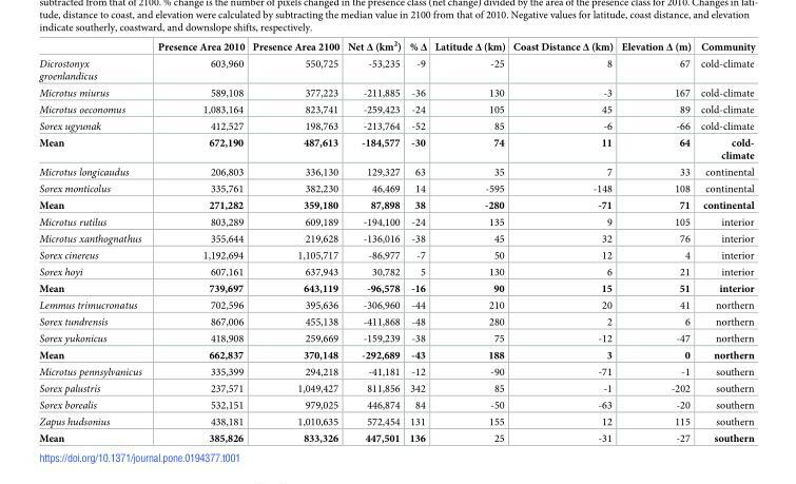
<table><thead><tr><td></td><td>Presence Area 2010</td><td>Presence Area 2100</td><td>Net Δ (km<sup>2</sup>)</td><td>% Δ</td><td>Latitude Δ (km)</td><td>Coast Distance Δ (km)</td><td>Elevation Δ (m)</td><td>Community</td></tr></thead><tbody><tr><td>Dicrostonyx groenlandicus</td><td>603,960</td><td>550,725</td><td>-53,235</td><td>-9</td><td>-25</td><td>8</td><td>67</td><td>cold-climate</td></tr><tr><td>Microtus miurus</td><td>589,108</td><td>377,223</td><td>-211,885</td><td>-36</td><td>130</td><td>-3</td><td>167</td><td>cold-climate</td></tr><tr><td>Microtus oeconomus</td><td>1,083,164</td><td>823,741</td><td>-259,423</td><td>-24</td><td>105</td><td>45</td><td>89</td><td>cold-climate</td></tr><tr><td>Sorex ugyunak</td><td>412,527</td><td>198,763</td><td>-213,764</td><td>-52</td><td>85</td><td>-6</td><td>-66</td><td>cold-climate</td></tr><tr><td>Mean</td><td>672,190</td><td>487,613</td><td>-184,577</td><td>-30</td><td>74</td><td>11</td><td>64</td><td>cold- climate</td></tr><tr><td>Microtus longicaudus</td><td>206,803</td><td>336,130</td><td>129,327</td><td>63</td><td>35</td><td>7</td><td>33</td><td>continental</td></tr><tr><td>Sorex monticolus</td><td>335,761</td><td>382,230</td><td>46,469</td><td>14</td><td>-595</td><td>-148</td><td>108</td><td>continental</td></tr><tr><td>Mean</td><td>271,282</td><td>359,180</td><td>87,898</td><td>38</td><td>-280</td><td>-71</td><td>71</td><td>continental</td></tr><tr><td>Microtus rutilus</td><td>803,289</td><td>609,189</td><td>-194,100</td><td>-24</td><td>135</td><td>9</td><td>105</td><td>interior</td></tr><tr><td>Microtus xanthognathus</td><td>355,644</td><td>219,628</td><td>-136,016</td><td>-38</td><td>45</td><td>32</td><td>76</td><td>interior</td></tr><tr><td>Sorex cinereus</td><td>1,192,694</td><td>1,105,717</td><td>-86,977</td><td>-7</td><td>50</td><td>12</td><td>4</td><td>interior</td></tr><tr><td>Sorex hoyi</td><td>607,161</td><td>637,943</td><td>30,782</td><td>5</td><td>130</td><td>6</td><td>21</td><td>interior</td></tr><tr><td>Mean</td><td>739,697</td><td>643,119</td><td>-96,578</td><td>-16</td><td>90</td><td>15</td><td>51</td><td>interior</td></tr><tr><td>Lemmus trimucronatus</td><td>702,596</td><td>395,636</td><td>-306,960</td><td>-44</td><td>210</td><td>20</td><td>41</td><td>northern</td></tr><tr><td>Sorex tundrensis</td><td>867,006</td><td>455,138</td><td>-411,868</td><td>-48</td><td>280</td><td>2</td><td>6</td><td>northern</td></tr><tr><td>Sorex yukonicus</td><td>418,908</td><td>259,669</td><td>-159,239</td><td>-38</td><td>75</td><td>-12</td><td>-47</td><td>northern</td></tr><tr><td>Mean</td><td>662,837</td><td>370,148</td><td>-292,689</td><td>-43</td><td>188</td><td>3</td><td>0</td><td>northern</td></tr><tr><td>Microtus pennsylvanicus</td><td>335,399</td><td>294,218</td><td>-41,181</td><td>-12</td><td>-90</td><td>-71</td><td>-1</td><td>southern</td></tr><tr><td>Sorex palustris</td><td>237,571</td><td>1,049,427</td><td>811,856</td><td>342</td><td>85</td><td>-1</td><td>-202</td><td>southern</td></tr><tr><td>Sorex borealis</td><td>532,151</td><td>979,025</td><td>446,874</td><td>84</td><td>-50</td><td>-63</td><td>-20</td><td>southern</td></tr><tr><td>Zapus hudsonius</td><td>438,181</td><td>1,010,635</td><td>572,454</td><td>131</td><td>155</td><td>12</td><td>115</td><td>southern</td></tr><tr><td>Mean</td><td>385,826</td><td>833,326</td><td>447,501</td><td>136</td><td>25</td><td>-31</td><td>-27</td><td>southern</td></tr></tbody></table>